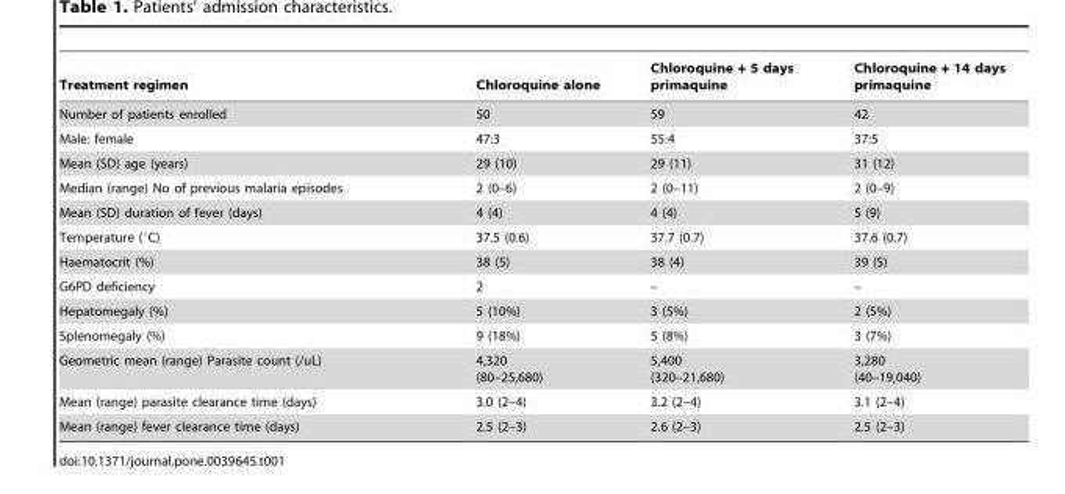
<table><thead><tr><td>Treatment regimen</td><td>Chloroquine alone</td><td>Chloroquine + 5 days primaquine</td><td>Chloroquine + 14 days primaquine</td></tr></thead><tbody><tr><td>Number of patients enrolled</td><td>50</td><td>59</td><td>42</td></tr><tr><td>Male: female</td><td>47:3</td><td>55:4</td><td>37:5</td></tr><tr><td>Mean (SD) age (years)</td><td>29 (10)</td><td>29 (11)</td><td>31 (12)</td></tr><tr><td>Median (range) No of previous malaria episodes</td><td>2 (0–6)</td><td>2 (0–11)</td><td>2 (0–9)</td></tr><tr><td>Mean (SD) duration of fever (days)</td><td>4 (4)</td><td>4 (4)</td><td>5 (9)</td></tr><tr><td>Temperature (°C)</td><td>37.5 (0.6)</td><td>37.7 (0.7)</td><td>37.6 (0.7)</td></tr><tr><td>Haematocrit (%)</td><td>38 (5)</td><td>38 (4)</td><td>39 (5)</td></tr><tr><td>G6PD deficiency</td><td>2</td><td>–</td><td>–</td></tr><tr><td>Hepatomegaly (%)</td><td>5 (10%)</td><td>3 (5%)</td><td>2 (5%)</td></tr><tr><td>Splenomegaly (%)</td><td>9 (18%)</td><td>5 (8%)</td><td>3 (7%)</td></tr><tr><td>Geometric mean (range) Parasite count (/uL)</td><td>4,320 (80–25,680)</td><td>5,400 (320–21,680)</td><td>3,280 (40–19,040)</td></tr><tr><td>Mean (range) parasite clearance time (days)</td><td>3.0 (2–4)</td><td>3.2 (2–4)</td><td>3.1 (2–4)</td></tr><tr><td>Mean (range) fever clearance time (days)</td><td>2.5 (2–3)</td><td>2.6 (2–3)</td><td>2.5 (2–3)</td></tr></tbody></table>